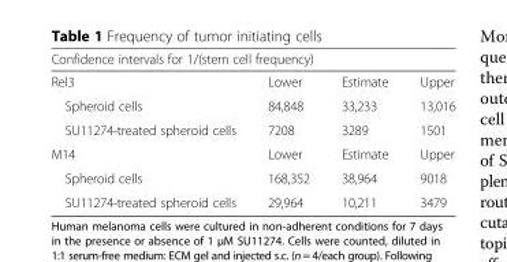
<table><thead><tr><td colspan="4">Confidence intervals for 1/(stem cell frequency)</td></tr><tr><td>Rel3</td><td>Lower</td><td>Estimate</td><td>Upper</td></tr></thead><tbody><tr><td>Spheroid cells</td><td>84,848</td><td>33,233</td><td>13,016</td></tr><tr><td>SU11274-treated spheroid cells</td><td>7208</td><td>3289</td><td>1501</td></tr><tr><td>M14</td><td>Lower</td><td>Estimate</td><td>Upper</td></tr><tr><td>Spheroid cells</td><td>168,352</td><td>38,964</td><td>9018</td></tr><tr><td>SU11274-treated spheroid cells</td><td>29,964</td><td>10,211</td><td>3479</td></tr></tbody></table>